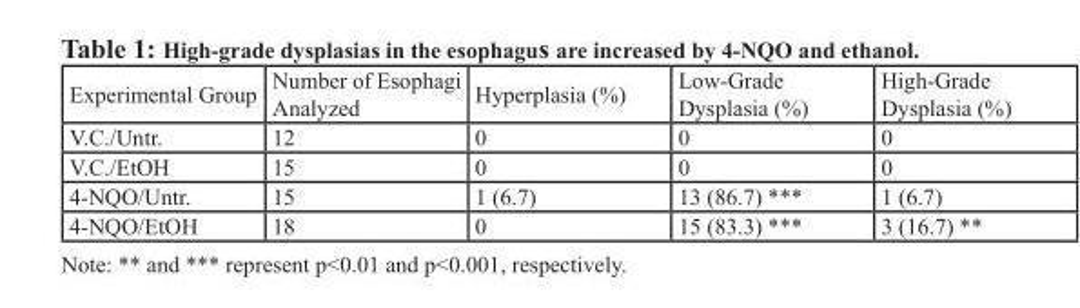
<table><thead><tr><td>Experimental Group</td><td>Number of Esophagi Analyzed</td><td>Hyperplasia (%)</td><td>Low-Grade Dysplasia (%)</td><td>High-Grade Dysplasia (%)</td></tr></thead><tbody><tr><td>V.C./Untr.</td><td>12</td><td>0</td><td>0</td><td>0</td></tr><tr><td>V.C./EtOH</td><td>15</td><td>0</td><td>0</td><td>0</td></tr><tr><td>4-NQO/Untr.</td><td>15</td><td>1 (6.7)</td><td>13 (86.7) ***</td><td>1 (6.7)</td></tr><tr><td>4-NQO/EtOH</td><td>18</td><td>0</td><td>15 (83.3) ***</td><td>3 (16.7) **</td></tr></tbody></table>